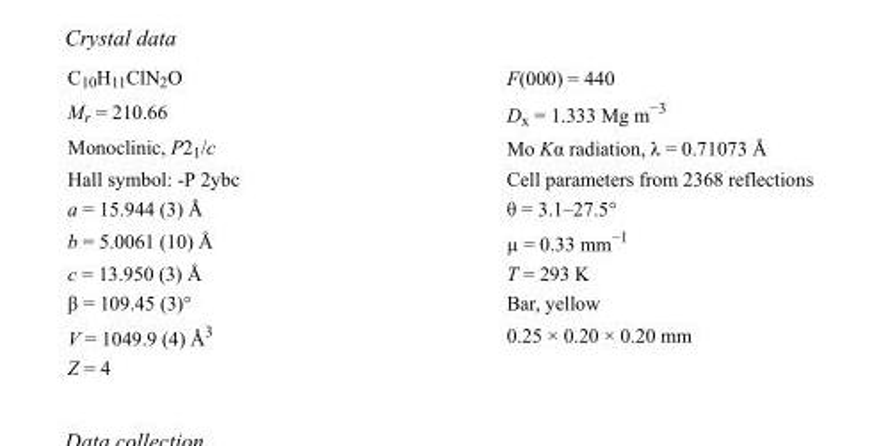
<table><tbody><tr><td>C<sub>10</sub>H<sub>11</sub>ClN<sub>2</sub>O</td><td>F(000) = 440</td></tr><tr><td>M<sub>r</sub> = 210.66</td><td>D<sub>x</sub> = 1.333 Mg m<sup>−3</sup></td></tr><tr><td>Monoclinic, P2<sub>1</sub>/c</td><td>Mo Kα radiation, λ = 0.71073 Å</td></tr><tr><td>Hall symbol: -P 2ybc</td><td>Cell parameters from 2368 reflections</td></tr><tr><td>a = 15.944 (3) Å</td><td>θ = 3.1–27.5°</td></tr><tr><td>b = 5.0061 (10) Å</td><td>µ = 0.33 mm<sup>−1</sup></td></tr><tr><td>c = 13.950 (3) Å</td><td>T = 293 K</td></tr><tr><td>β = 109.45 (3)°</td><td>Bar, yellow</td></tr><tr><td>V = 1049.9 (4) Å<sup>3</sup></td><td>0.25 × 0.20 × 0.20 mm</td></tr><tr><td>Z = 4</td><td></td></tr></tbody></table>